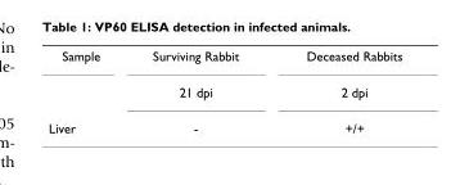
<table><tbody><tr><td rowspan="2">Sample</td><td>Surviving Rabbit</td><td>Deceased Rabbits</td></tr><tr><td>21 dpi</td><td>2 dpi</td></tr><tr><td>Liver</td><td>-</td><td>+/+</td></tr></tbody></table>